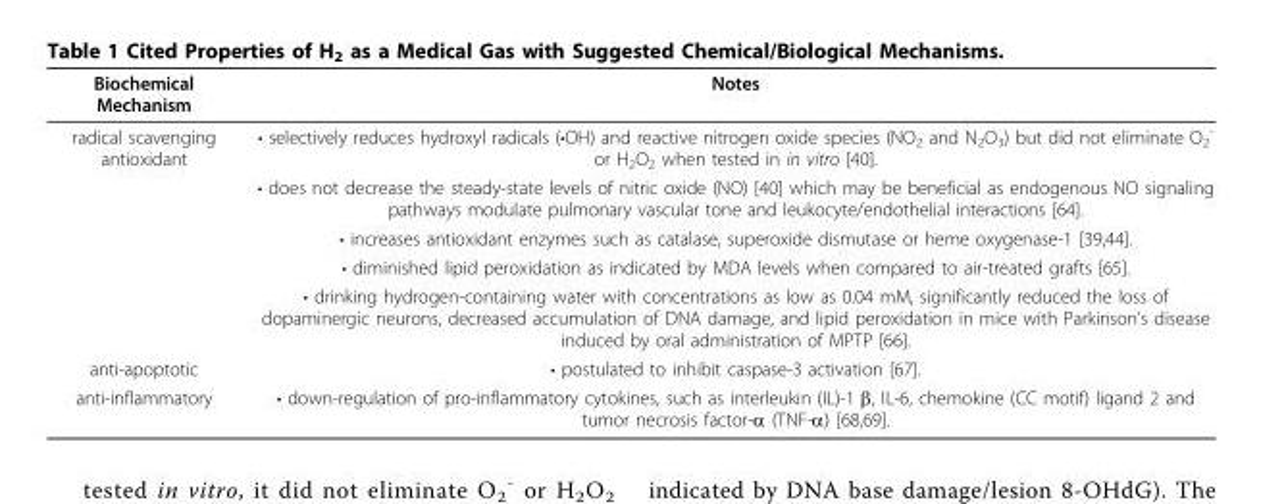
<table><thead><tr><td>Biochemical Mechanism</td><td>Notes</td></tr></thead><tbody><tr><td rowspan="5">radical scavenging antioxidant</td><td>• selectively reduces hydroxyl radicals (•OH) and reactive nitrogen oxide species (NO<sub>2</sub> and N<sub>2</sub>O<sub>3</sub>) but did not eliminate O<sub>2</sub> <sup>-</sup> or H<sub>2</sub>O<sub>2</sub> when tested in in vitro [40].</td></tr><tr><td>• does not decrease the steady-state levels of nitric oxide (NO) [40] which may be beneficial as endogenous NO signaling pathways modulate pulmonary vascular tone and leukocyte/endothelial interactions [64].</td></tr><tr><td>• increases antioxidant enzymes such as catalase, superoxide dismutase or heme oxygenase-1 [39,44].</td></tr><tr><td>• diminished lipid peroxidation as indicated by MDA levels when compared to air-treated grafts [65].</td></tr><tr><td>• drinking hydrogen-containing water with concentrations as low as 0.04 mM, significantly reduced the loss of dopaminergic neurons, decreased accumulation of DNA damage, and lipid peroxidation in mice with Parkinson’s disease induced by oral administration of MPTP [66].</td></tr><tr><td>anti-apoptotic</td><td>• postulated to inhibit caspase-3 activation [67].</td></tr><tr><td>anti-inflammatory</td><td>• down-regulation of pro-inflammatory cytokines, such as interleukin (IL)-1 β, IL-6, chemokine (CC motif) ligand 2 and tumor necrosis factor-α (TNF-α) [68,69].</td></tr></tbody></table>